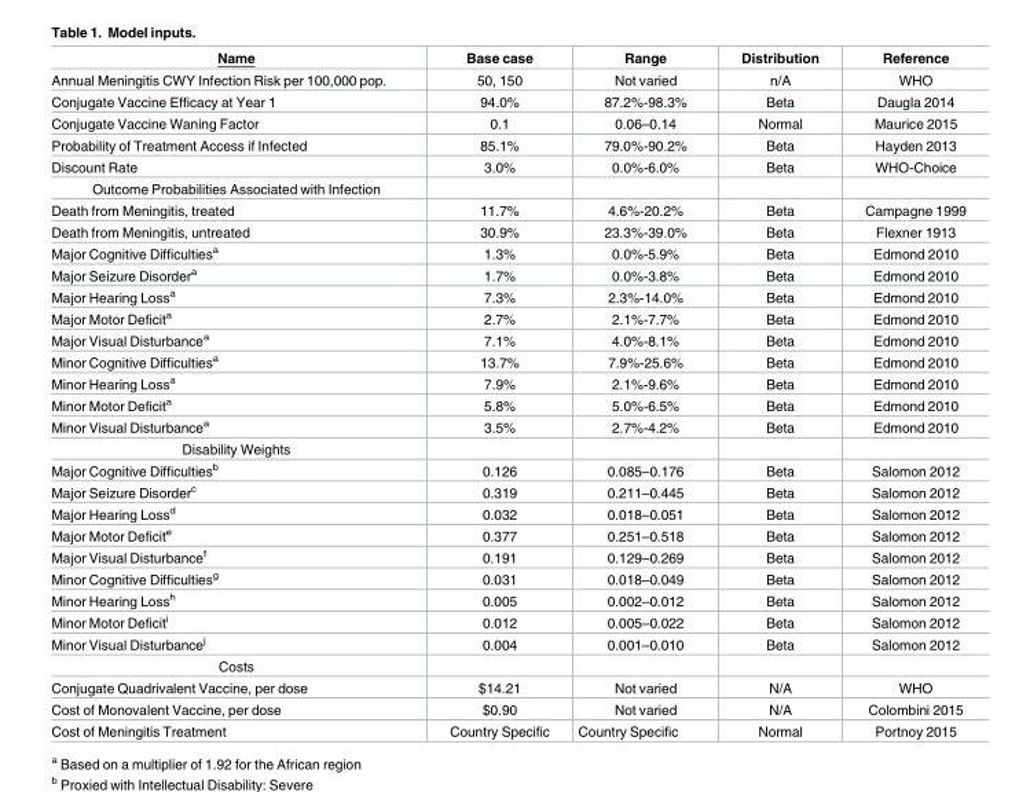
<table><thead><tr><td>Name</td><td>Base case</td><td>Range</td><td>Distribution</td><td>Reference</td></tr></thead><tbody><tr><td>Annual Meningitis CWY Infection Risk per 100,000 pop.</td><td>50, 150</td><td>Not varied</td><td>n/A</td><td>WHO</td></tr><tr><td>Conjugate Vaccine Efficacy at Year 1</td><td>94.0%</td><td>87.2%-98.3%</td><td>Beta</td><td>Daugla 2014</td></tr><tr><td>Conjugate Vaccine Waning Factor</td><td>0.1</td><td>0.06–0.14</td><td>Normal</td><td>Maurice 2015</td></tr><tr><td>Probability of Treatment Access if Infected</td><td>85.1%</td><td>79.0%-90.2%</td><td>Beta</td><td>Hayden 2013</td></tr><tr><td>Discount Rate</td><td>3.0%</td><td>0.0%-6.0%</td><td>Beta</td><td>WHO-Choice</td></tr><tr><td colspan="5">Outcome Probabilities Associated with Infection</td></tr><tr><td>Death from Meningitis, treated</td><td>11.7%</td><td>4.6%-20.2%</td><td>Beta</td><td>Campagne 1999</td></tr><tr><td>Death from Meningitis, untreated</td><td>30.9%</td><td>23.3%-39.0%</td><td>Beta</td><td>Flexner 1913</td></tr><tr><td>Major Cognitive Difficulties<sup>a</sup></td><td>1.3%</td><td>0.0%-5.9%</td><td>Beta</td><td>Edmond 2010</td></tr><tr><td>Major Seizure Disorder<sup>a</sup></td><td>1.7%</td><td>0.0%-3.8%</td><td>Beta</td><td>Edmond 2010</td></tr><tr><td>Major Hearing Loss<sup>a</sup></td><td>7.3%</td><td>2.3%-14.0%</td><td>Beta</td><td>Edmond 2010</td></tr><tr><td>Major Motor Deficit<sup>a</sup></td><td>2.7%</td><td>2.1%-7.7%</td><td>Beta</td><td>Edmond 2010</td></tr><tr><td>Major Visual Disturbance<sup>a</sup></td><td>7.1%</td><td>4.0%-8.1%</td><td>Beta</td><td>Edmond 2010</td></tr><tr><td>Minor Cognitive Difficulties<sup>a</sup></td><td>13.7%</td><td>7.9%-25.6%</td><td>Beta</td><td>Edmond 2010</td></tr><tr><td>Minor Hearing Loss<sup>a</sup></td><td>7.9%</td><td>2.1%-9.6%</td><td>Beta</td><td>Edmond 2010</td></tr><tr><td>Minor Motor Deficit<sup>a</sup></td><td>5.8%</td><td>5.0%-6.5%</td><td>Beta</td><td>Edmond 2010</td></tr><tr><td>Minor Visual Disturbance<sup>a</sup></td><td>3.5%</td><td>2.7%-4.2%</td><td>Beta</td><td>Edmond 2010</td></tr><tr><td colspan="5">Disability Weights</td></tr><tr><td>Major Cognitive Difficulties<sup>b</sup></td><td>0.126</td><td>0.085–0.176</td><td>Beta</td><td>Salomon 2012</td></tr><tr><td>Major Seizure Disorder<sup>c</sup></td><td>0.319</td><td>0.211–0.445</td><td>Beta</td><td>Salomon 2012</td></tr><tr><td>Major Hearing Loss<sup>d</sup></td><td>0.032</td><td>0.018–0.051</td><td>Beta</td><td>Salomon 2012</td></tr><tr><td>Major Motor Deficit<sup>e</sup></td><td>0.377</td><td>0.251–0.518</td><td>Beta</td><td>Salomon 2012</td></tr><tr><td>Major Visual Disturbance<sup>f</sup></td><td>0.191</td><td>0.129–0.269</td><td>Beta</td><td>Salomon 2012</td></tr><tr><td>Minor Cognitive Difficulties<sup>g</sup></td><td>0.031</td><td>0.018–0.049</td><td>Beta</td><td>Salomon 2012</td></tr><tr><td>Minor Hearing Loss<sup>h</sup></td><td>0.005</td><td>0.002–0.012</td><td>Beta</td><td>Salomon 2012</td></tr><tr><td>Minor Motor Deficit<sup>i</sup></td><td>0.012</td><td>0.005–0.022</td><td>Beta</td><td>Salomon 2012</td></tr><tr><td>Minor Visual Disturbance<sup>j</sup></td><td>0.004</td><td>0.001–0.010</td><td>Beta</td><td>Salomon 2012</td></tr><tr><td colspan="5">Costs</td></tr><tr><td>Conjugate Quadrivalent Vaccine, per dose</td><td>$14.21</td><td>Not varied</td><td>N/A</td><td>WHO</td></tr><tr><td>Cost of Monovalent Vaccine, per dose</td><td>$0.90</td><td>Not varied</td><td>N/A</td><td>Colombini 2015</td></tr><tr><td>Cost of Meningitis Treatment</td><td>Country Specific</td><td>Country Specific</td><td>Normal</td><td>Portnoy 2015</td></tr></tbody></table>